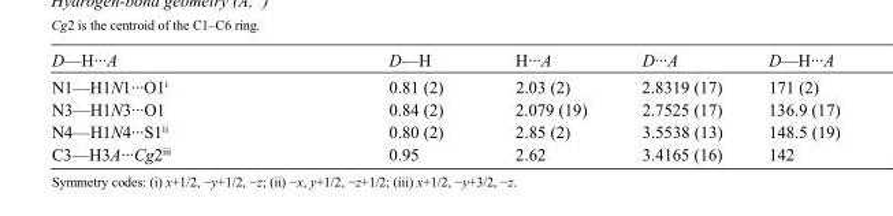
<table><tbody><tr><td>D—H···A</td><td>D—H</td><td>H···A</td><td>D···A</td><td>D—H···A</td></tr><tr><td>N1—H1N1···O1<sup>i</sup></td><td>0.81 (2)</td><td>2.03 (2)</td><td>2.8319 (17)</td><td>171 (2)</td></tr><tr><td>N3—H1N3···O1</td><td>0.84 (2)</td><td>2.079 (19)</td><td>2.7525 (17)</td><td>136.9 (17)</td></tr><tr><td>N4—H1N4···S1<sup>ii</sup></td><td>0.80 (2)</td><td>2.85 (2)</td><td>3.5538 (13)</td><td>148.5 (19)</td></tr><tr><td>C3—H3A···Cg2<sup>iii</sup></td><td>0.95</td><td>2.62</td><td>3.4165 (16)</td><td>142</td></tr></tbody></table>